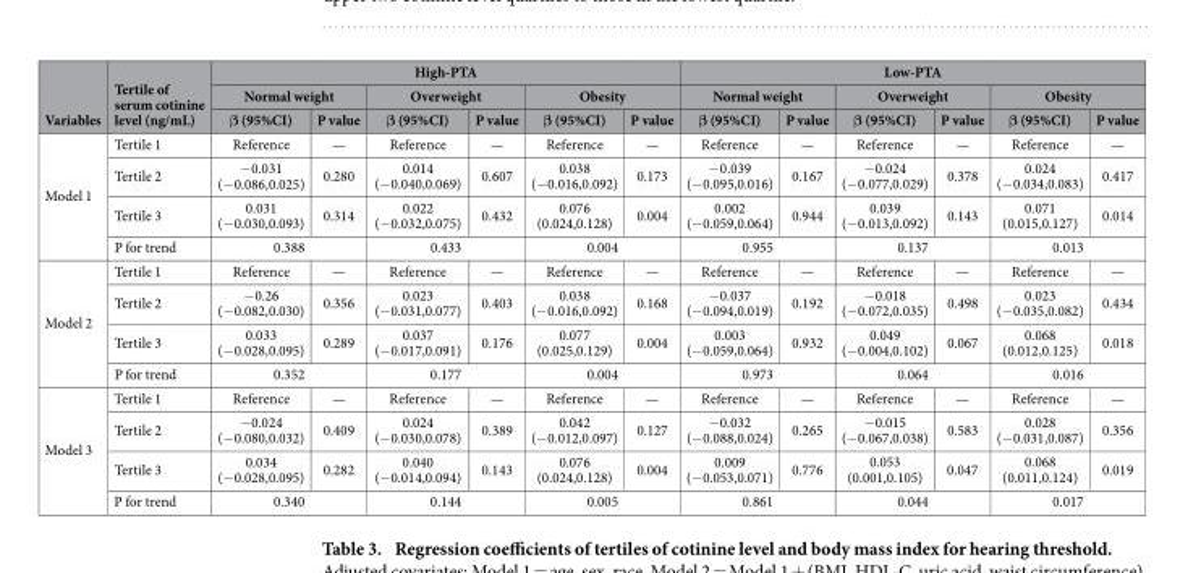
<table><thead><tr><td rowspan="3">Variables</td><td rowspan="3">Tertile of serum cotinine level (ng/mL)</td><td colspan="6">High-PTA</td><td colspan="6">Low-PTA</td></tr><tr><td colspan="2">Normal weight</td><td colspan="2">Overweight</td><td colspan="2">Obesity</td><td colspan="2">Normal weight</td><td colspan="2">Overweight</td><td colspan="2">Obesity</td></tr><tr><td>β (95%CI)</td><td>P value</td><td>β (95%CI)</td><td>P value</td><td>β (95%CI)</td><td>P value</td><td>β (95%CI)</td><td>P value</td><td>β (95%CI)</td><td>P value</td><td>β (95%CI)</td><td>P value</td></tr></thead><tbody><tr><td rowspan="4">Model 1</td><td>Tertile 1</td><td>Reference</td><td>—</td><td>Reference</td><td>—</td><td>Reference</td><td>—</td><td>Reference</td><td>—</td><td>Reference</td><td>—</td><td>Reference</td><td>—</td></tr><tr><td>Tertile 2</td><td>− 0.031 (− 0.086,0.025)</td><td>0.280</td><td>0.014 (− 0.040,0.069)</td><td>0.607</td><td>0.038 (− 0.016,0.092)</td><td>0.173</td><td>− 0.039 (− 0.095,0.016)</td><td>0.167</td><td>− 0.024 (− 0.077,0.029)</td><td>0.378</td><td>0.024 (− 0.034,0.083)</td><td>0.417</td></tr><tr><td>Tertile 3</td><td>0.031 (− 0.030,0.093)</td><td>0.314</td><td>0.022 (− 0.032,0.075)</td><td>0.432</td><td>0.076 (0.024,0.128)</td><td>0.004</td><td>0.002 (− 0.059,0.064)</td><td>0.944</td><td>0.039 (− 0.013,0.092)</td><td>0.143</td><td>0.071 (0.015,0.127)</td><td>0.014</td></tr><tr><td>P for trend</td><td colspan="2">0.388</td><td colspan="2">0.433</td><td colspan="2">0.004</td><td colspan="2">0.955</td><td colspan="2">0.137</td><td colspan="2">0.013</td></tr><tr><td rowspan="4">Model 2</td><td>Tertile 1</td><td>Reference</td><td>—</td><td>Reference</td><td>—</td><td>Reference</td><td>—</td><td>Reference</td><td>—</td><td>Reference</td><td>—</td><td>Reference</td><td>—</td></tr><tr><td>Tertile 2</td><td>− 0.26 (− 0.082,0.030)</td><td>0.356</td><td>0.023 (− 0.031,0.077)</td><td>0.403</td><td>0.038 (− 0.016,0.092)</td><td>0.168</td><td>− 0.037 (− 0.094,0.019)</td><td>0.192</td><td>− 0.018 (− 0.072,0.035)</td><td>0.498</td><td>0.023 (− 0.035,0.082)</td><td>0.434</td></tr><tr><td>Tertile 3</td><td>0.033 (− 0.028,0.095)</td><td>0.289</td><td>0.037 (− 0.017,0.091)</td><td>0.176</td><td>0.077 (0.025,0.129)</td><td>0.004</td><td>0.003 (− 0.059,0.064)</td><td>0.932</td><td>0.049 (− 0.004,0.102)</td><td>0.067</td><td>0.068 (0.012,0.125)</td><td>0.018</td></tr><tr><td>P for trend</td><td colspan="2">0.352</td><td colspan="2">0.177</td><td colspan="2">0.004</td><td colspan="2">0.973</td><td colspan="2">0.064</td><td colspan="2">0.016</td></tr><tr><td rowspan="4">Model 3</td><td>Tertile 1</td><td>Reference</td><td>—</td><td>Reference</td><td>—</td><td>Reference</td><td>—</td><td>Reference</td><td>—</td><td>Reference</td><td>—</td><td>Reference</td><td>—</td></tr><tr><td>Tertile 2</td><td>− 0.024 (− 0.080,0.032)</td><td>0.409</td><td>0.024 (− 0.030,0.078)</td><td>0.389</td><td>0.042 (− 0.012,0.097)</td><td>0.127</td><td>− 0.032 (− 0.088,0.024)</td><td>0.265</td><td>− 0.015 (− 0.067,0.038)</td><td>0.583</td><td>0.028 (− 0.031,0.087)</td><td>0.356</td></tr><tr><td>Tertile 3</td><td>0.034 (− 0.028,0.095)</td><td>0.282</td><td>0.040 (− 0.014,0.094)</td><td>0.143</td><td>0.076 (0.024,0.128)</td><td>0.004</td><td>0.009 (− 0.053,0.071)</td><td>0.776</td><td>0.053 (0.001,0.105)</td><td>0.047</td><td>0.068 (0.011,0.124)</td><td>0.019</td></tr><tr><td>P for trend</td><td colspan="2">0.340</td><td colspan="2">0.144</td><td colspan="2">0.005</td><td colspan="2">0.861</td><td colspan="2">0.044</td><td colspan="2">0.017</td></tr></tbody></table>